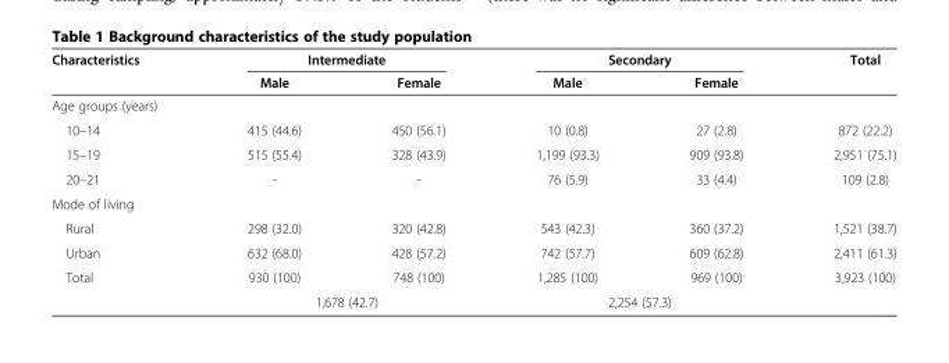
<table><thead><tr><td rowspan="2">Characteristics</td><td colspan="2">Intermediate</td><td colspan="2">Secondary</td><td rowspan="2">Total</td></tr><tr><td>Male</td><td>Female</td><td>Male</td><td>Female</td></tr></thead><tbody><tr><td colspan="6">Age groups (years)</td></tr><tr><td>10–14</td><td>415 (44.6)</td><td>450 (56.1)</td><td>10 (0.8)</td><td>27 (2.8)</td><td>872 (22.2)</td></tr><tr><td>15–19</td><td>515 (55.4)</td><td>328 (43.9)</td><td>1,199 (93.3)</td><td>909 (93.8)</td><td>2,951 (75.1)</td></tr><tr><td>20–21</td><td>-</td><td>-</td><td>76 (5.9)</td><td>33 (4.4)</td><td>109 (2.8)</td></tr><tr><td colspan="6">Mode of living</td></tr><tr><td>Rural</td><td>298 (32.0)</td><td>320 (42.8)</td><td>543 (42.3)</td><td>360 (37.2)</td><td>1,521 (38.7)</td></tr><tr><td>Urban</td><td>632 (68.0)</td><td>428 (57.2)</td><td>742 (57.7)</td><td>609 (62.8)</td><td>2,411 (61.3)</td></tr><tr><td rowspan="2">Total</td><td>930 (100)</td><td>748 (100)</td><td>1,285 (100)</td><td>969 (100)</td><td rowspan="2">3,923 (100)</td></tr><tr><td colspan="2">1,678 (42.7)</td><td colspan="2">2,254 (57.3)</td></tr></tbody></table>